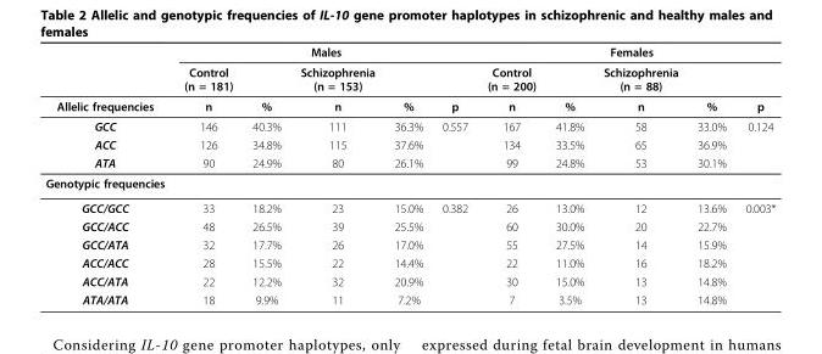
<table><thead><tr><td rowspan="2"></td><td colspan="5">Males</td><td colspan="5">Females</td></tr><tr><td>Control (n = 181)</td><td></td><td>Schizophrenia (n = 153)</td><td></td><td></td><td>Control (n = 200)</td><td></td><td>Schizophrenia (n = 88)</td><td></td><td></td></tr></thead><tbody><tr><td>Allelic frequencies</td><td>n</td><td>%</td><td>n</td><td>%</td><td>p</td><td>n</td><td>%</td><td>n</td><td>%</td><td>p</td></tr><tr><td>GCC</td><td>146</td><td>40.3%</td><td>111</td><td>36.3%</td><td>0.557</td><td>167</td><td>41.8%</td><td>58</td><td>33.0%</td><td>0.124</td></tr><tr><td>ACC</td><td>126</td><td>34.8%</td><td>115</td><td>37.6%</td><td></td><td>134</td><td>33.5%</td><td>65</td><td>36.9%</td><td></td></tr><tr><td>ATA</td><td>90</td><td>24.9%</td><td>80</td><td>26.1%</td><td></td><td>99</td><td>24.8%</td><td>53</td><td>30.1%</td><td></td></tr><tr><td colspan="11">Genotypic frequencies</td></tr><tr><td>GCC/GCC</td><td>33</td><td>18.2%</td><td>23</td><td>15.0%</td><td>0.382</td><td>26</td><td>13.0%</td><td>12</td><td>13.6%</td><td>0.003*</td></tr><tr><td>GCC/ACC</td><td>48</td><td>26.5%</td><td>39</td><td>25.5%</td><td></td><td>60</td><td>30.0%</td><td>20</td><td>22.7%</td><td></td></tr><tr><td>GCC/ATA</td><td>32</td><td>17.7%</td><td>26</td><td>17.0%</td><td></td><td>55</td><td>27.5%</td><td>14</td><td>15.9%</td><td></td></tr><tr><td>ACC/ACC</td><td>28</td><td>15.5%</td><td>22</td><td>14.4%</td><td></td><td>22</td><td>11.0%</td><td>16</td><td>18.2%</td><td></td></tr><tr><td>ACC/ATA</td><td>22</td><td>12.2%</td><td>32</td><td>20.9%</td><td></td><td>30</td><td>15.0%</td><td>13</td><td>14.8%</td><td></td></tr><tr><td>ATA/ATA</td><td>18</td><td>9.9%</td><td>11</td><td>7.2%</td><td></td><td>7</td><td>3.5%</td><td>13</td><td>14.8%</td><td></td></tr></tbody></table>